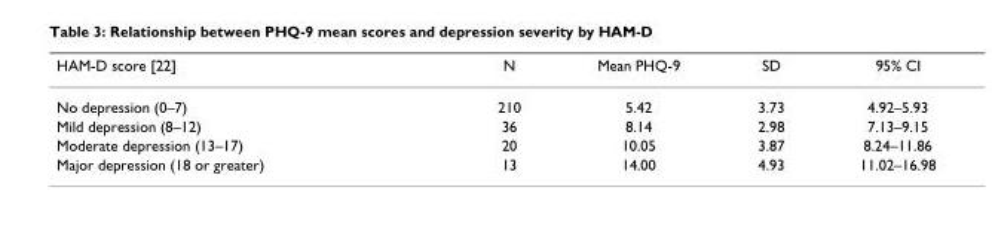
<table><thead><tr><td>HAM-D score [22]</td><td>N</td><td>Mean PHQ-9</td><td>SD</td><td>95% CI</td></tr></thead><tbody><tr><td>No depression (0–7)</td><td>210</td><td>5.42</td><td>3.73</td><td>4.92–5.93</td></tr><tr><td>Mild depression (8–12)</td><td>36</td><td>8.14</td><td>2.98</td><td>7.13–9.15</td></tr><tr><td>Moderate depression (13–17)</td><td>20</td><td>10.05</td><td>3.87</td><td>8.24–11.86</td></tr><tr><td>Major depression (18 or greater)</td><td>13</td><td>14.00</td><td>4.93</td><td>11.02–16.98</td></tr></tbody></table>